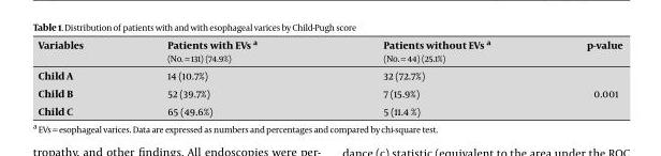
<table><thead><tr><td>Variables</td><td>Patients with EVs a (No. = 131) (74.9%)</td><td>Patients without EVs a (No. = 44) (25.1%)</td><td>p-value</td></tr></thead><tbody><tr><td>Child A</td><td>14 (10.7%)</td><td>32 (72.7%)</td><td rowspan="3">0.001</td></tr><tr><td>Child B</td><td>52 (39.7%)</td><td>7 (15.9%)</td></tr><tr><td>Child C</td><td>65 (49.6%)</td><td>5 (11.4 %)</td></tr></tbody></table>